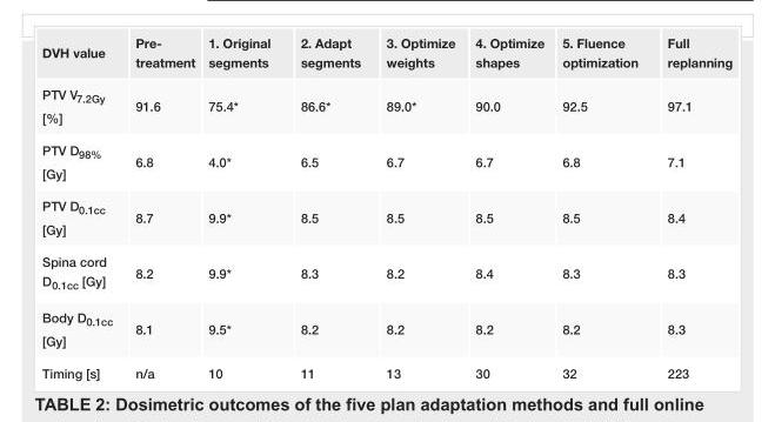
<table><tbody><tr><td>DVH value</td><td>Pre- treatment</td><td>1. Original segments</td><td>2. Adapt segments</td><td>3. Optimize weights</td><td>4. Optimize shapes</td><td>5. Fluence optimization</td><td>Full replanning</td></tr><tr><td>PTV V<sub>7.2Gy</sub> [%]</td><td>91.6</td><td>75.4*</td><td>86.6*</td><td>89.0*</td><td>90.0</td><td>92.5</td><td>97.1</td></tr><tr><td>PTV D<sub>98%</sub> [Gy]</td><td>6.8</td><td>4.0*</td><td>6.5</td><td>6.7</td><td>6.7</td><td>6.8</td><td>7.1</td></tr><tr><td>PTV D<sub>0.1cc</sub> [Gy]</td><td>8.7</td><td>9.9*</td><td>8.5</td><td>8.5</td><td>8.5</td><td>8.5</td><td>8.4</td></tr><tr><td>Spina cord D<sub>0.1cc</sub> [Gy]</td><td>8.2</td><td>9.9*</td><td>8.3</td><td>8.2</td><td>8.4</td><td>8.3</td><td>8.3</td></tr><tr><td>Body D<sub>0.1cc</sub> [Gy]</td><td>8.1</td><td>9.5*</td><td>8.2</td><td>8.2</td><td>8.2</td><td>8.2</td><td>8.3</td></tr><tr><td>Timing [s]</td><td>n/a</td><td>10</td><td>11</td><td>13</td><td>30</td><td>32</td><td>223</td></tr></tbody></table>